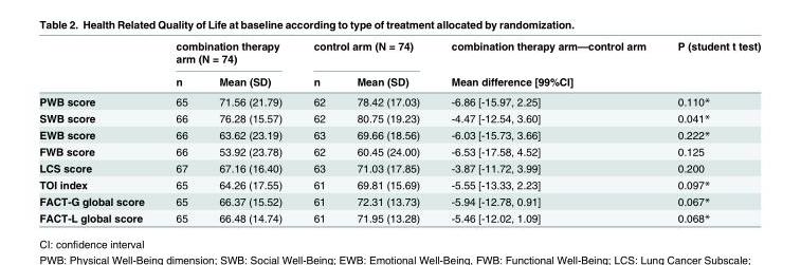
<table><thead><tr><td rowspan="2"></td><td colspan="2">combination therapy arm (N = 74)</td><td colspan="2">control arm (N = 74)</td><td>combination therapy arm—control arm</td><td>P (student t test)</td></tr><tr><td>n</td><td>Mean (SD)</td><td>n</td><td>Mean (SD)</td><td colspan="2">Mean difference [99%CI]</td></tr></thead><tbody><tr><td>PWB score</td><td>65</td><td>71.56 (21.79)</td><td>62</td><td>78.42 (17.03)</td><td>-6.86 [-15.97, 2.25]</td><td>0.110*</td></tr><tr><td>SWB score</td><td>66</td><td>76.28 (15.57)</td><td>62</td><td>80.75 (19.23)</td><td>-4.47 [-12.54, 3.60]</td><td>0.041*</td></tr><tr><td>EWB score</td><td>66</td><td>63.62 (23.19)</td><td>63</td><td>69.66 (18.56)</td><td>-6.03 [-15.73, 3.66]</td><td>0.222*</td></tr><tr><td>FWB score</td><td>66</td><td>53.92 (23.78)</td><td>62</td><td>60.45 (24.00)</td><td>-6.53 [-17.58, 4.52]</td><td>0.125</td></tr><tr><td>LCS score</td><td>67</td><td>67.16 (16.40)</td><td>63</td><td>71.03 (17.85)</td><td>-3.87 [-11.72, 3.99]</td><td>0.200</td></tr><tr><td>TOI index</td><td>65</td><td>64.26 (17.55)</td><td>61</td><td>69.81 (15.69)</td><td>-5.55 [-13.33, 2.23]</td><td>0.097*</td></tr><tr><td>FACT-G global score</td><td>65</td><td>66.37 (15.52)</td><td>61</td><td>72.31 (13.73)</td><td>-5.94 [-12.78, 0.91]</td><td>0.067*</td></tr><tr><td>FACT-L global score</td><td>65</td><td>66.48 (14.74)</td><td>61</td><td>71.95 (13.28)</td><td>-5.46 [-12.02, 1.09]</td><td>0.068*</td></tr></tbody></table>